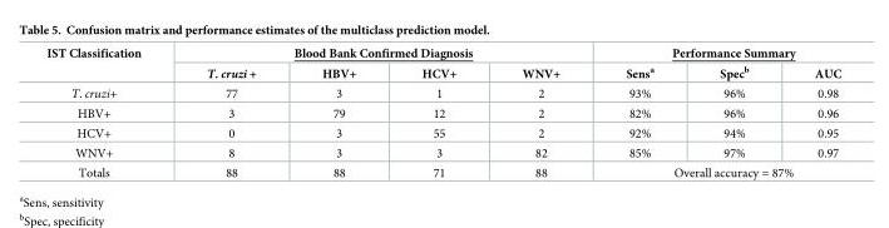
<table><thead><tr><td rowspan="2">IST Classification</td><td colspan="4">Blood Bank Confirmed Diagnosis</td><td colspan="3">Performance Summary</td></tr><tr><td>T. cruzi +</td><td>HBV+</td><td>HCV+</td><td>WNV+</td><td>Sens<sup>a</sup></td><td>Spec<sup>b</sup></td><td>AUC</td></tr></thead><tbody><tr><td>T. cruzi+</td><td>77</td><td>3</td><td>1</td><td>2</td><td>93%</td><td>96%</td><td>0.98</td></tr><tr><td>HBV+</td><td>3</td><td>79</td><td>12</td><td>2</td><td>82%</td><td>96%</td><td>0.96</td></tr><tr><td>HCV+</td><td>0</td><td>3</td><td>55</td><td>2</td><td>92%</td><td>94%</td><td>0.95</td></tr><tr><td>WNV+</td><td>8</td><td>3</td><td>3</td><td>82</td><td>85%</td><td>97%</td><td>0.97</td></tr><tr><td>Totals</td><td>88</td><td>88</td><td>71</td><td>88</td><td colspan="3">Overall accuracy = 87%</td></tr></tbody></table>